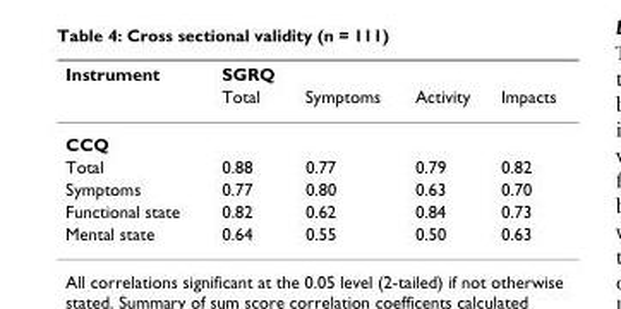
<table><thead><tr><td rowspan="2">Instrument</td><td rowspan="2">SGRQ Total</td><td rowspan="2">Symptoms</td><td rowspan="2">Activity</td><td rowspan="2">Impacts</td></tr><tr></tr></thead><tbody><tr><td colspan="5">CCQ</td></tr><tr><td>Total</td><td>0.88</td><td>0.77</td><td>0.79</td><td>0.82</td></tr><tr><td>Symptoms</td><td>0.77</td><td>0.80</td><td>0.63</td><td>0.70</td></tr><tr><td>Functional state</td><td>0.82</td><td>0.62</td><td>0.84</td><td>0.73</td></tr><tr><td>Mental state</td><td>0.64</td><td>0.55</td><td>0.50</td><td>0.63</td></tr></tbody></table>